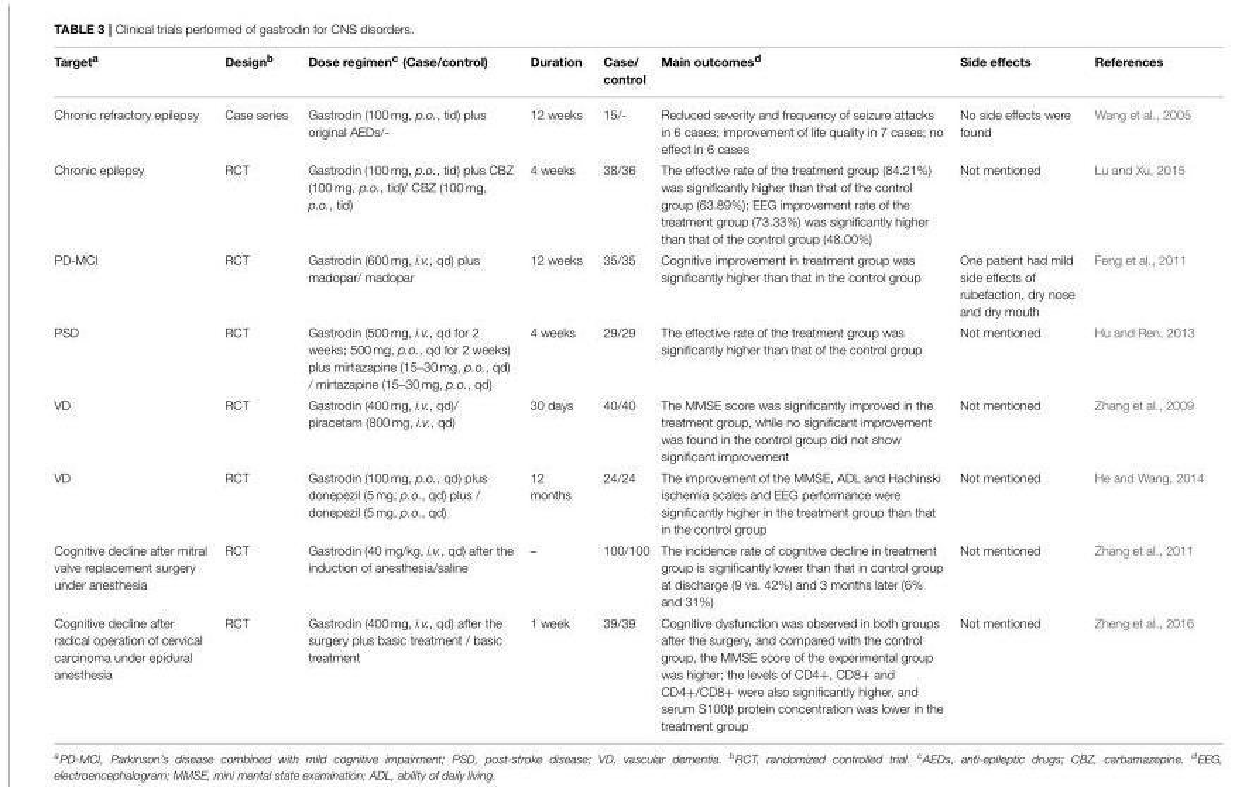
<table><thead><tr><td>Target<sup>a</sup></td><td>Design<sup>b</sup></td><td>Dose regimen<sup>c</sup> (Case/control)</td><td>Duration</td><td>Case/ control</td><td>Main outcomes<sup>d</sup></td><td>Side effects</td><td>References</td></tr></thead><tbody><tr><td>Chronic refractory epilepsy</td><td>Case series</td><td>Gastrodin (100 mg, p.o., tid) plus original AEDs/-</td><td>12 weeks</td><td>15/-</td><td>Reduced severity and frequency of seizure attacks in 6 cases; improvement of life quality in 7 cases; no effect in 6 cases</td><td>No side effects were found</td><td>Wang et al., 2005</td></tr><tr><td>Chronic epilepsy</td><td>RCT</td><td>Gastrodin (100 mg, p.o., tid) plus CBZ (100 mg, p.o., tid)/ CBZ (100 mg, p.o., tid)</td><td>4 weeks</td><td>38/36</td><td>The effective rate of the treatment group (84.21%) was significantly higher than that of the control group (63.89%); EEG improvement rate of the treatment group (73.33%) was significantly higher than that of the control group (48.00%)</td><td>Not mentioned</td><td>Lu and Xu, 2015</td></tr><tr><td>PD-MCI</td><td>RCT</td><td>Gastrodin (600 mg, i.v., qd) plus madopar/ madopar</td><td>12 weeks</td><td>35/35</td><td>Cognitive improvement in treatment group was significantly higher than that in the control group</td><td>One patient had mild side effects of rubefaction, dry nose and dry mouth</td><td>Feng et al., 2011</td></tr><tr><td>PSD</td><td>RCT</td><td>Gastrodin (500 mg, i.v., qd for 2 weeks; 500 mg, p.o., qd for 2 weeks) plus mirtazapine (15–30 mg, p.o., qd) / mirtazapine (15–30 mg, p.o., qd)</td><td>4 weeks</td><td>29/29</td><td>The effective rate of the treatment group was significantly higher than that of the control group</td><td>Not mentioned</td><td>Hu and Ren, 2013</td></tr><tr><td>VD</td><td>RCT</td><td>Gastrodin (400 mg, i.v., qd)/ piracetam (800 mg, i.v., qd)</td><td>30 days</td><td>40/40</td><td>The MMSE score was significantly improved in the treatment group, while no significant improvement was found in the control group did not show significant improvement</td><td>Not mentioned</td><td>Zhang et al., 2009</td></tr><tr><td>VD</td><td>RCT</td><td>Gastrodin (100 mg, p.o., qd) plus donepezil (5 mg, p.o., qd) plus / donepezil (5 mg, p.o., qd)</td><td>12 months</td><td>24/24</td><td>The improvement of the MMSE, ADL and Hachinski ischemia scales and EEG performance were significantly higher in the treatment group than that in the control group</td><td>Not mentioned</td><td>He and Wang, 2014</td></tr><tr><td>Cognitive decline after mitral valve replacement surgery under anesthesia</td><td>RCT</td><td>Gastrodin (40 mg/kg, i.v., qd) after the induction of anesthesia/saline</td><td>–</td><td>100/100</td><td>The incidence rate of cognitive decline in treatment group is significantly lower than that in control group at discharge (9 vs. 42%) and 3 months later (6% and 31%)</td><td>Not mentioned</td><td>Zhang et al., 2011</td></tr><tr><td>Cognitive decline after radical operation of cervical carcinoma under epidural anesthesia</td><td>RCT</td><td>Gastrodin (400 mg, i.v., qd) after the surgery plus basic treatment / basic treatment</td><td>1 week</td><td>39/39</td><td>Cognitive dysfunction was observed in both groups after the surgery, and compared with the control group, the MMSE score of the experimental group was higher; the levels of CD4+, CD8+ and CD4+/CD8+ were also significantly higher, and serum S100β protein concentration was lower in the treatment group</td><td>Not mentioned</td><td>Zheng et al., 2016</td></tr></tbody></table>